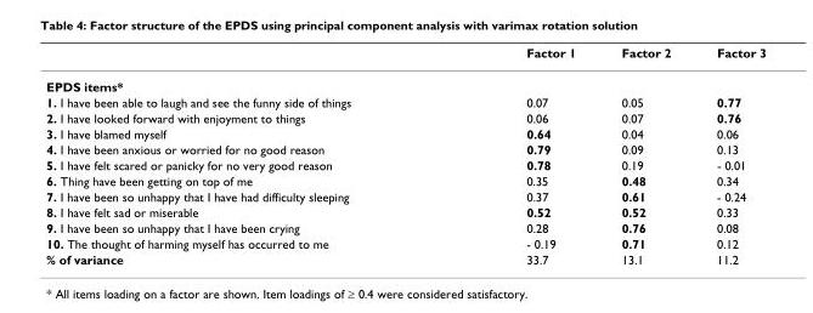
<table><thead><tr><td></td><td>Factor 1</td><td>Factor 2</td><td>Factor 3</td></tr></thead><tbody><tr><td colspan="4">EPDS items*</td></tr><tr><td>1. I have been able to laugh and see the funny side of things</td><td>0.07</td><td>0.05</td><td>0.77</td></tr><tr><td>2. I have looked forward with enjoyment to things</td><td>0.06</td><td>0.07</td><td>0.76</td></tr><tr><td>3. I have blamed myself</td><td>0.64</td><td>0.04</td><td>0.06</td></tr><tr><td>4. I have been anxious or worried for no good reason</td><td>0.79</td><td>0.09</td><td>0.13</td></tr><tr><td>5. I have felt scared or panicky for no very good reason</td><td>0.78</td><td>0.19</td><td>- 0.01</td></tr><tr><td>6. Thing have been getting on top of me</td><td>0.35</td><td>0.48</td><td>0.34</td></tr><tr><td>7. I have been so unhappy that I have had difficulty sleeping</td><td>0.37</td><td>0.61</td><td>- 0.24</td></tr><tr><td>8. I have felt sad or miserable</td><td>0.52</td><td>0.52</td><td>0.33</td></tr><tr><td>9. I have been so unhappy that I have been crying</td><td>0.28</td><td>0.76</td><td>0.08</td></tr><tr><td>10. The thought of harming myself has occurred to me</td><td>- 0.19</td><td>0.71</td><td>0.12</td></tr><tr><td>% of variance</td><td>33.7</td><td>13.1</td><td>11.2</td></tr></tbody></table>